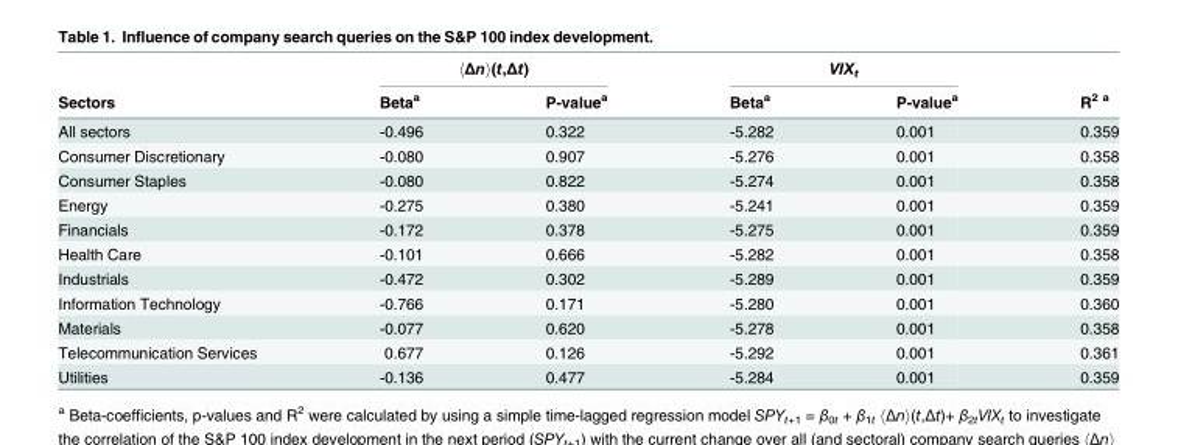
<table><thead><tr><td rowspan="2">Sectors</td><td colspan="2">〈Δn〉(t,Δt)</td><td colspan="2">VIX<sub>t</sub></td><td rowspan="2">R<sup>2 a</sup></td></tr><tr><td>Beta<sup>a</sup></td><td>P-value<sup>a</sup></td><td>Beta<sup>a</sup></td><td>P-value<sup>a</sup></td></tr></thead><tbody><tr><td>All sectors</td><td>-0.496</td><td>0.322</td><td>-5.282</td><td>0.001</td><td>0.359</td></tr><tr><td>Consumer Discretionary</td><td>-0.080</td><td>0.907</td><td>-5.276</td><td>0.001</td><td>0.358</td></tr><tr><td>Consumer Staples</td><td>-0.080</td><td>0.822</td><td>-5.274</td><td>0.001</td><td>0.358</td></tr><tr><td>Energy</td><td>-0.275</td><td>0.380</td><td>-5.241</td><td>0.001</td><td>0.359</td></tr><tr><td>Financials</td><td>-0.172</td><td>0.378</td><td>-5.275</td><td>0.001</td><td>0.359</td></tr><tr><td>Health Care</td><td>-0.101</td><td>0.666</td><td>-5.282</td><td>0.001</td><td>0.358</td></tr><tr><td>Industrials</td><td>-0.472</td><td>0.302</td><td>-5.289</td><td>0.001</td><td>0.359</td></tr><tr><td>Information Technology</td><td>-0.766</td><td>0.171</td><td>-5.280</td><td>0.001</td><td>0.360</td></tr><tr><td>Materials</td><td>-0.077</td><td>0.620</td><td>-5.278</td><td>0.001</td><td>0.358</td></tr><tr><td>Telecommunication Services</td><td>0.677</td><td>0.126</td><td>-5.292</td><td>0.001</td><td>0.361</td></tr><tr><td>Utilities</td><td>-0.136</td><td>0.477</td><td>-5.284</td><td>0.001</td><td>0.359</td></tr></tbody></table>